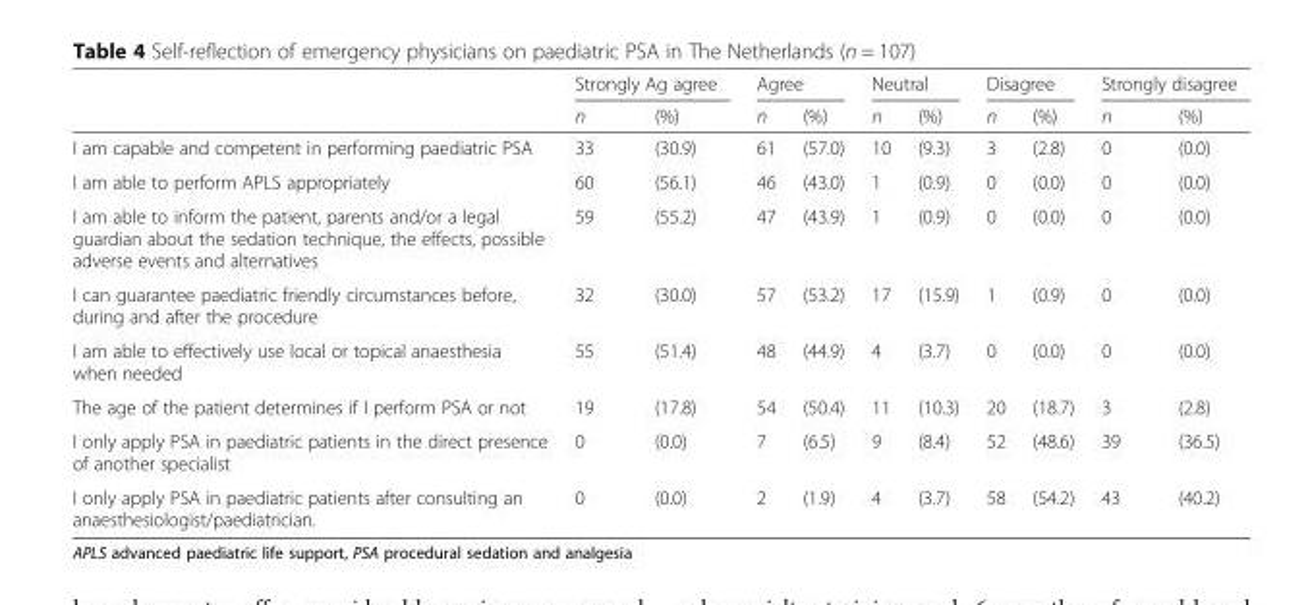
<table><thead><tr><td rowspan="2"></td><td colspan="2">Strongly Ag agree</td><td colspan="2">Agree</td><td colspan="2">Neutral</td><td colspan="2">Disagree</td><td colspan="2">Strongly disagree</td></tr><tr><td>n</td><td>(%)</td><td>n</td><td>(%)</td><td>n</td><td>(%)</td><td>n</td><td>(%)</td><td>n</td><td>(%)</td></tr></thead><tbody><tr><td>I am capable and competent in performing paediatric PSA</td><td>33</td><td>(30.9)</td><td>61</td><td>(57.0)</td><td>10</td><td>(9.3)</td><td>3</td><td>(2.8)</td><td>0</td><td>(0.0)</td></tr><tr><td>I am able to perform APLS appropriately</td><td>60</td><td>(56.1)</td><td>46</td><td>(43.0)</td><td>1</td><td>(0.9)</td><td>0</td><td>(0.0)</td><td>0</td><td>(0.0)</td></tr><tr><td>I am able to inform the patient, parents and/or a legal guardian about the sedation technique, the effects, possible adverse events and alternatives</td><td>59</td><td>(55.2)</td><td>47</td><td>(43.9)</td><td>1</td><td>(0.9)</td><td>0</td><td>(0.0)</td><td>0</td><td>(0.0)</td></tr><tr><td>I can guarantee paediatric friendly circumstances before, during and after the procedure</td><td>32</td><td>(30.0)</td><td>57</td><td>(53.2)</td><td>17</td><td>(15.9)</td><td>1</td><td>(0.9)</td><td>0</td><td>(0.0)</td></tr><tr><td>I am able to effectively use local or topical anaesthesia when needed</td><td>55</td><td>(51.4)</td><td>48</td><td>(44.9)</td><td>4</td><td>(3.7)</td><td>0</td><td>(0.0)</td><td>0</td><td>(0.0)</td></tr><tr><td>The age of the patient determines if I perform PSA or not</td><td>19</td><td>(17.8)</td><td>54</td><td>(50.4)</td><td>11</td><td>(10.3)</td><td>20</td><td>(18.7)</td><td>3</td><td>(2.8)</td></tr><tr><td>I only apply PSA in paediatric patients in the direct presence of another specialist</td><td>0</td><td>(0.0)</td><td>7</td><td>(6.5)</td><td>9</td><td>(8.4)</td><td>52</td><td>(48.6)</td><td>39</td><td>(36.5)</td></tr><tr><td>I only apply PSA in paediatric patients after consulting an anaesthesiologist/paediatrician.</td><td>0</td><td>(0.0)</td><td>2</td><td>(1.9)</td><td>4</td><td>(3.7)</td><td>58</td><td>(54.2)</td><td>43</td><td>(40.2)</td></tr></tbody></table>